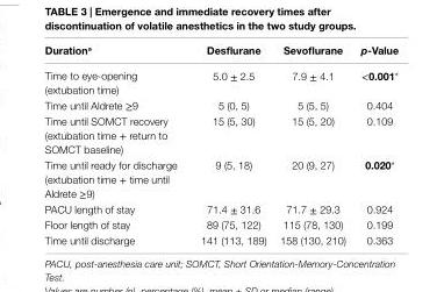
<table><thead><tr><td>Duration<sup>a</sup></td><td>Desflurane</td><td>sevoflurane</td><td>p-Value</td></tr></thead><tbody><tr><td>Time to eye-opening (extubation time)</td><td>5.0 ± 2.5</td><td>7.9 ± 4.1</td><td>&lt;0.001*</td></tr><tr><td>Time until Aldrete ≥9</td><td>5 (0, 5)</td><td>5 (5, 5)</td><td>0.404</td></tr><tr><td>Time until SOMCT recovery (extubation time + return to SOMCT baseline)</td><td>15 (5, 30)</td><td>15 (5, 20)</td><td>0.109</td></tr><tr><td>Time until ready for discharge (extubation time + time until Aldrete ≥9)</td><td>9 (5, 18)</td><td>20 (9, 27)</td><td>0.020*</td></tr><tr><td>PACU length of stay</td><td>71.4 ± 31.6</td><td>71.7 ± 29.3</td><td>0.924</td></tr><tr><td>Floor length of stay</td><td>89 (75, 122)</td><td>115 (78, 130)</td><td>0.199</td></tr><tr><td>Time until discharge</td><td>141 (113, 189)</td><td>158 (130, 210)</td><td>0.363</td></tr></tbody></table>